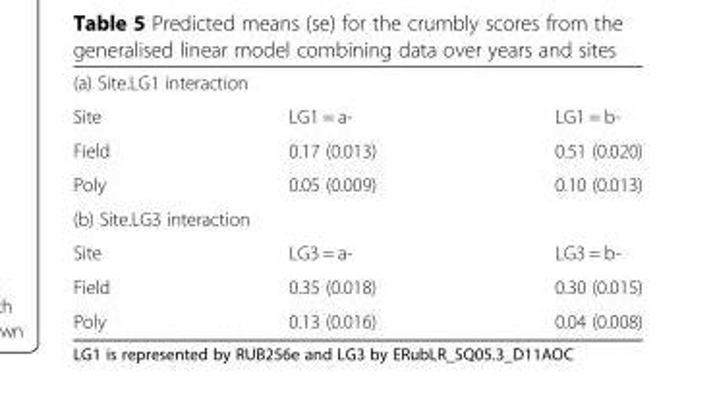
<table><tbody><tr><td colspan="3">(a) Site.LG1 interaction</td></tr><tr><td>Site</td><td>LG1 = a-</td><td>LG1 = b-</td></tr><tr><td>Field</td><td>0.17 (0.013)</td><td>0.51 (0.020)</td></tr><tr><td>Poly</td><td>0.05 (0.009)</td><td>0.10 (0.013)</td></tr><tr><td colspan="3">(b) Site.LG3 interaction</td></tr><tr><td>Site</td><td>LG3 = a-</td><td>LG3 = b-</td></tr><tr><td>Field</td><td>0.35 (0.018)</td><td>0.30 (0.015)</td></tr><tr><td>Poly</td><td>0.13 (0.016)</td><td>0.04 (0.008)</td></tr></tbody></table>